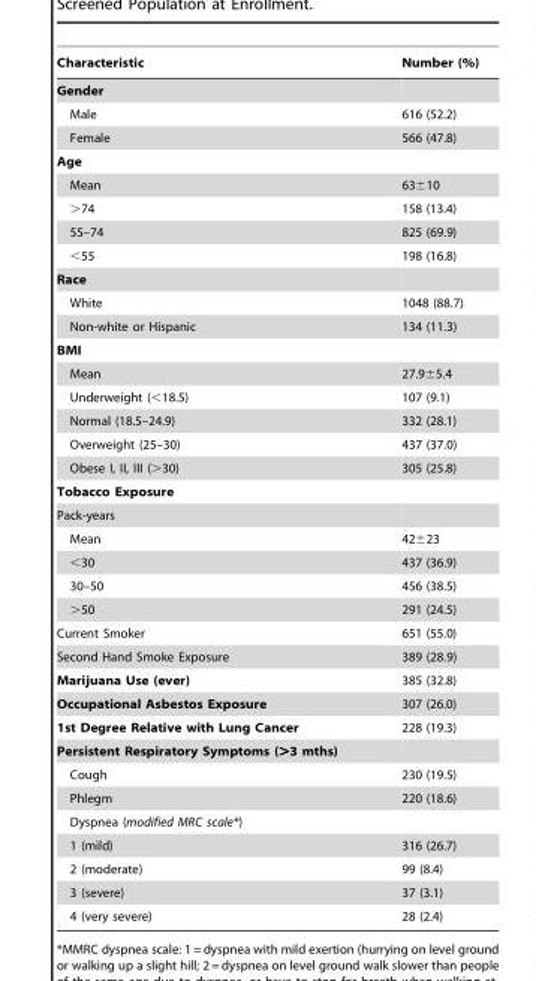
<table><thead><tr><td>Characteristic</td><td>Number (%)</td></tr></thead><tbody><tr><td colspan="2">Gender</td></tr><tr><td>Male</td><td>616 (52.2)</td></tr><tr><td>Female</td><td>566 (47.8)</td></tr><tr><td colspan="2">Age</td></tr><tr><td>Mean</td><td>63±10</td></tr><tr><td>&gt;74</td><td>158 (13.4)</td></tr><tr><td>55–74</td><td>825 (69.9)</td></tr><tr><td>&lt;55</td><td>198 (16.8)</td></tr><tr><td colspan="2">Race</td></tr><tr><td>White</td><td>1048 (88.7)</td></tr><tr><td>Non-white or Hispanic</td><td>134 (11.3)</td></tr><tr><td colspan="2">BMI</td></tr><tr><td>Mean</td><td>27.9±5.4</td></tr><tr><td>Underweight (&lt;18.5)</td><td>107 (9.1)</td></tr><tr><td>Normal (18.5–24.9)</td><td>332 (28.1)</td></tr><tr><td>Overweight (25–30)</td><td>437 (37.0)</td></tr><tr><td>Obese I, II, III (&gt;30)</td><td>305 (25.8)</td></tr><tr><td colspan="2">Tobacco Exposure</td></tr><tr><td colspan="2">Pack-years</td></tr><tr><td>Mean</td><td>42±23</td></tr><tr><td>&lt;30</td><td>437 (36.9)</td></tr><tr><td>30–50</td><td>456 (38.5)</td></tr><tr><td>&gt;50</td><td>291 (24.5)</td></tr><tr><td>Current Smoker</td><td>651 (55.0)</td></tr><tr><td>Second Hand Smoke Exposure</td><td>389 (28.9)</td></tr><tr><td>Marijuana Use (ever)</td><td>385 (32.8)</td></tr><tr><td>Occupational Asbestos Exposure</td><td>307 (26.0)</td></tr><tr><td>1st Degree Relative with Lung Cancer</td><td>228 (19.3)</td></tr><tr><td colspan="2">Persistent Respiratory Symptoms (&gt;3 mths)</td></tr><tr><td>Cough</td><td>230 (19.5)</td></tr><tr><td>Phlegm</td><td>220 (18.6)</td></tr><tr><td colspan="2">Dyspnea (modified MRC scale*)</td></tr><tr><td>1 (mild)</td><td>316 (26.7)</td></tr><tr><td>2 (moderate)</td><td>99 (8.4)</td></tr><tr><td>3 (severe)</td><td>37 (3.1)</td></tr><tr><td>4 (very severe)</td><td>28 (2.4)</td></tr></tbody></table>